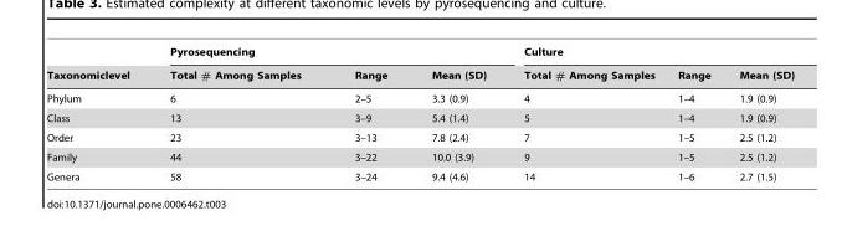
<table><thead><tr><td rowspan="2">Taxonomiclevel</td><td colspan="3">Pyrosequencing</td><td colspan="3">Culture</td></tr><tr><td>Total # Among Samples</td><td>Range</td><td>Mean (SD)</td><td>Total # Among Samples</td><td>Range</td><td>Mean (SD)</td></tr></thead><tbody><tr><td>Phylum</td><td>6</td><td>2–5</td><td>3.3 (0.9)</td><td>4</td><td>1–4</td><td>1.9 (0.9)</td></tr><tr><td>Class</td><td>13</td><td>3–9</td><td>5.4 (1.4)</td><td>5</td><td>1–4</td><td>1.9 (0.9)</td></tr><tr><td>Order</td><td>23</td><td>3–13</td><td>7.8 (2.4)</td><td>7</td><td>1–5</td><td>2.5 (1.2)</td></tr><tr><td>Family</td><td>44</td><td>3–22</td><td>10.0 (3.9)</td><td>9</td><td>1–5</td><td>2.5 (1.2)</td></tr><tr><td>Genera</td><td>58</td><td>3–24</td><td>9.4 (4.6)</td><td>14</td><td>1–6</td><td>2.7 (1.5)</td></tr></tbody></table>